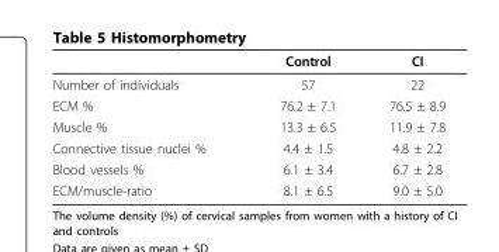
<table><thead><tr><td></td><td>Control</td><td>CI</td></tr></thead><tbody><tr><td>Number of individuals</td><td>57</td><td>22</td></tr><tr><td>ECM %</td><td>76.2 ± 7.1</td><td>76.5 ± 8.9</td></tr><tr><td>Muscle %</td><td>13.3 ± 6.5</td><td>11.9 ± 7.8</td></tr><tr><td>Connective tissue nuclei %</td><td>4.4 ± 1.5</td><td>4.8 ± 2.2</td></tr><tr><td>Blood vessels %</td><td>6.1 ± 3.4</td><td>6.7 ± 2.8</td></tr><tr><td>ECM/muscle-ratio</td><td>8.1 ± 6.5</td><td>9.0 ± 5.0</td></tr></tbody></table>